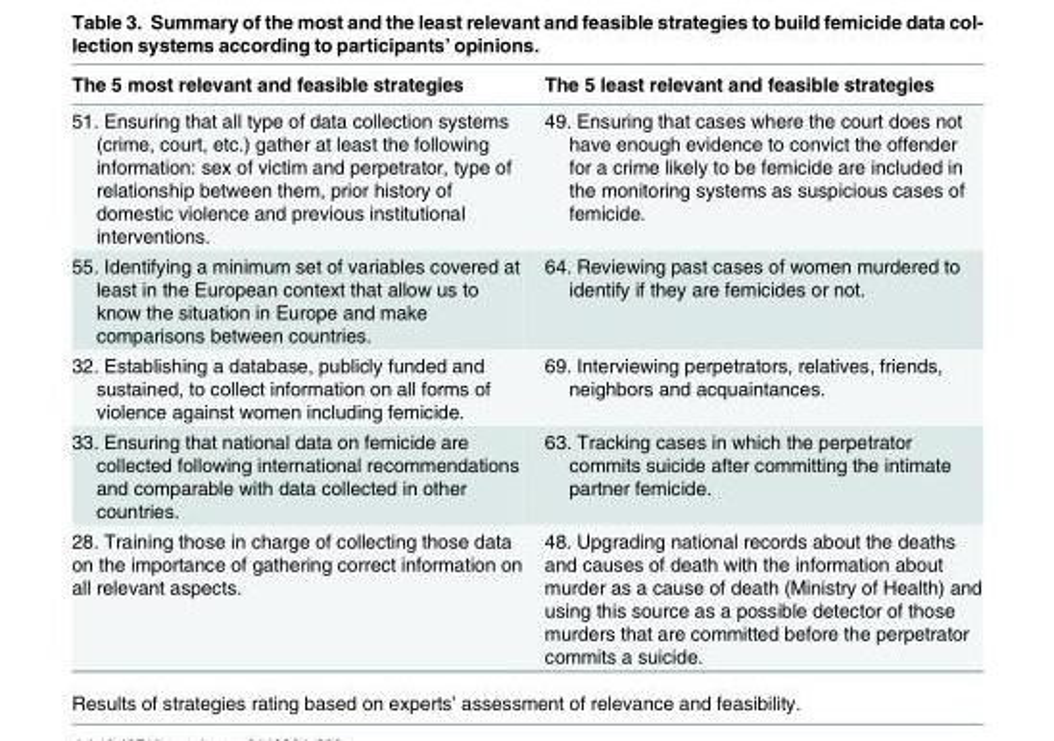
<table><thead><tr><td>The 5 most relevant and feasible strategies</td><td>The 5 least relevant and feasible strategies</td></tr></thead><tbody><tr><td>51. Ensuring that all type of data collection systems (crime, court, etc.) gather at least the following information: sex of victim and perpetrator, type of relationship between them, prior history of domestic violence and previous institutional interventions.</td><td>49. Ensuring that cases where the court does not have enough evidence to convict the offender for a crime likely to be femicide are included in the monitoring systems as suspicious cases of femicide.</td></tr><tr><td>55. Identifying a minimum set of variables covered at least in the European context that allow us to know the situation in Europe and make comparisons between countries.</td><td>64. Reviewing past cases of women murdered to identify if they are femicides or not.</td></tr><tr><td>32. Establishing a database, publicly funded and sustained, to collect information on all forms of violence against women including femicide.</td><td>69. Interviewing perpetrators, relatives, friends, neighbors and acquaintances.</td></tr><tr><td>33. Ensuring that national data on femicide are collected following international recommendations and comparable with data collected in other countries.</td><td>63. Tracking cases in which the perpetrator commits suicide after committing the intimate partner femicide.</td></tr><tr><td>28. Training those in charge of collecting those data on the importance of gathering correct information on all relevant aspects.</td><td>48. Upgrading national records about the deaths and causes of death with the information about murder as a cause of death (Ministry of Health) and using this source as a possible detector of those murders that are committed before the perpetrator commits a suicide.</td></tr></tbody></table>